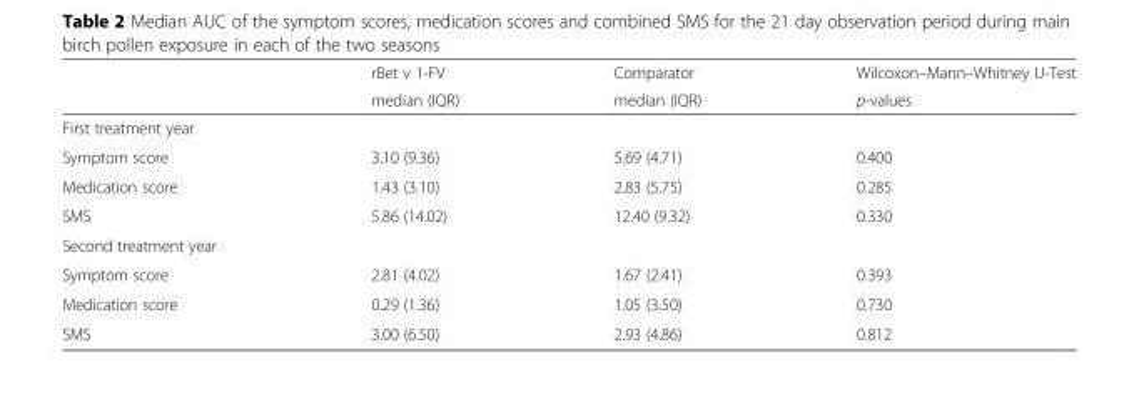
<table><thead><tr><td rowspan="2"></td><td rowspan="2">rBet v 1-FV median (IQR)</td><td rowspan="2">Comparator median (IQR)</td><td rowspan="2">Wilcoxon–Mann–Whitney U-Test p-values</td></tr><tr></tr></thead><tbody><tr><td colspan="4">First treatment year</td></tr><tr><td>Symptom score</td><td>3.10 (9.36)</td><td>5.69 (4.71)</td><td>0.400</td></tr><tr><td>Medication score</td><td>1.43 (3.10)</td><td>2.83 (5.75)</td><td>0.285</td></tr><tr><td>SMS</td><td>5.86 (14.02)</td><td>12.40 (9.32)</td><td>0.330</td></tr><tr><td colspan="4">Second treatment year</td></tr><tr><td>Symptom score</td><td>2.81 (4.02)</td><td>1.67 (2.41)</td><td>0.393</td></tr><tr><td>Medication score</td><td>0.29 (1.36)</td><td>1.05 (3.50)</td><td>0.730</td></tr><tr><td>SMS</td><td>3.00 (6.50)</td><td>2.93 (4.86)</td><td>0.812</td></tr></tbody></table>